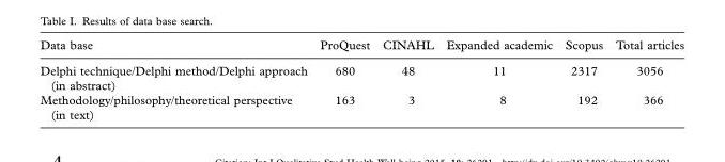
<table><thead><tr><td>Data base</td><td>ProQuest</td><td>CINAHL</td><td>Expanded academic</td><td>Scopus</td><td>Total articles</td></tr></thead><tbody><tr><td>Delphi technique/Delphi method/Delphi approach (in abstract)</td><td>680</td><td>48</td><td>11</td><td>2317</td><td>3056</td></tr><tr><td>Methodology/philosophy/theoretical perspective (in text)</td><td>163</td><td>3</td><td>8</td><td>192</td><td>366</td></tr></tbody></table>